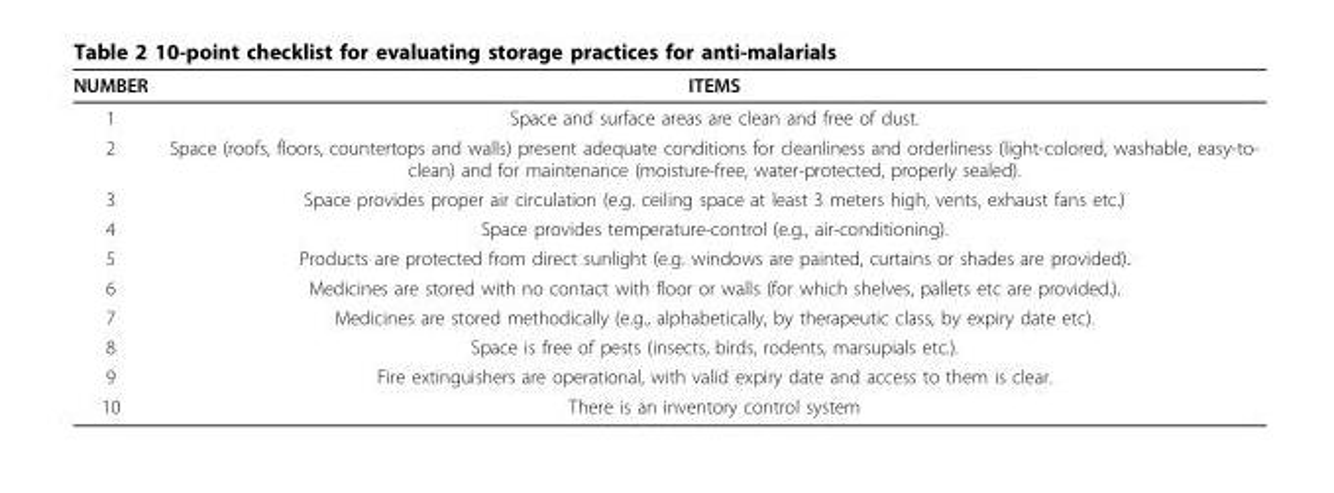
<table><thead><tr><td>NUMBER</td><td>ITEMS</td></tr></thead><tbody><tr><td>1</td><td>Space and surface areas are clean and free of dust.</td></tr><tr><td>2</td><td>Space (roofs, floors, countertops and walls) present adequate conditions for cleanliness and orderliness (light-colored, washable, easy-to- clean) and for maintenance (moisture-free, water-protected, properly sealed).</td></tr><tr><td>3</td><td>Space provides proper air circulation (e.g. ceiling space at least 3 meters high, vents, exhaust fans etc.)</td></tr><tr><td>4</td><td>Space provides temperature-control (e.g., air-conditioning).</td></tr><tr><td>5</td><td>Products are protected from direct sunlight (e.g. windows are painted, curtains or shades are provided).</td></tr><tr><td>6</td><td>Medicines are stored with no contact with floor or walls (for which shelves, pallets etc are provided.).</td></tr><tr><td>7</td><td>Medicines are stored methodically (e.g., alphabetically, by therapeutic class, by expiry date etc).</td></tr><tr><td>8</td><td>Space is free of pests (insects, birds, rodents, marsupials etc.).</td></tr><tr><td>9</td><td>Fire extinguishers are operational, with valid expiry date and access to them is clear.</td></tr><tr><td>10</td><td>There is an inventory control system</td></tr></tbody></table>